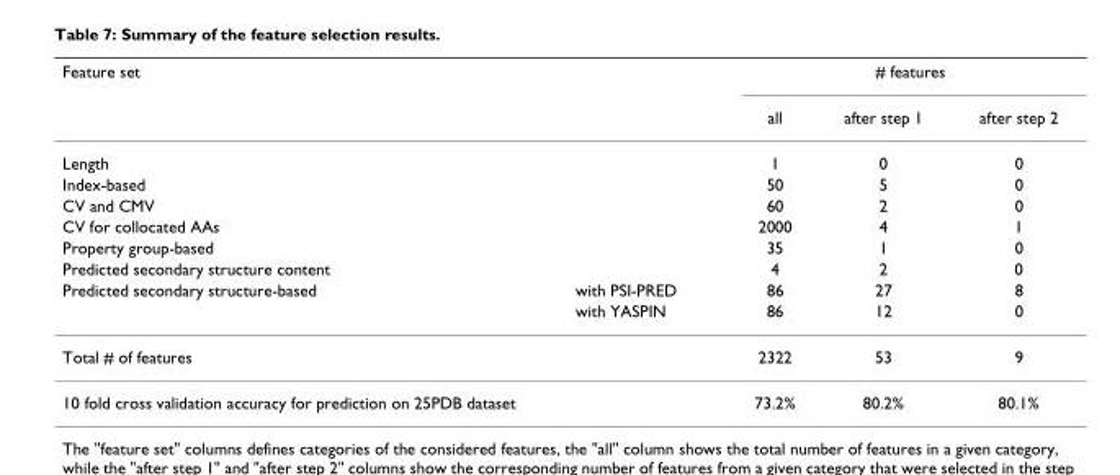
<table><thead><tr><td colspan="2">Feature set</td><td colspan="3"># features</td></tr><tr><td></td><td></td><td>all</td><td>after step 1</td><td>after step 2</td></tr></thead><tbody><tr><td>Length</td><td></td><td>1</td><td>0</td><td>0</td></tr><tr><td>Index-based</td><td></td><td>50</td><td>5</td><td>0</td></tr><tr><td>CV and CMV</td><td></td><td>60</td><td>2</td><td>0</td></tr><tr><td>CV for collocated AAs</td><td></td><td>2000</td><td>4</td><td>1</td></tr><tr><td>Property group-based</td><td></td><td>35</td><td>1</td><td>0</td></tr><tr><td>Predicted secondary structure content</td><td></td><td>4</td><td>2</td><td>0</td></tr><tr><td rowspan="2">Predicted secondary structure-based</td><td>with PSI-PRED</td><td>86</td><td>27</td><td>8</td></tr><tr><td>with YASPIN</td><td>86</td><td>12</td><td>0</td></tr><tr><td>Total # of features</td><td></td><td>2322</td><td>53</td><td>9</td></tr><tr><td>10 fold cross validation accuracy for prediction on 25PDB dataset</td><td></td><td>73.2%</td><td>80.2%</td><td>80.1%</td></tr></tbody></table>